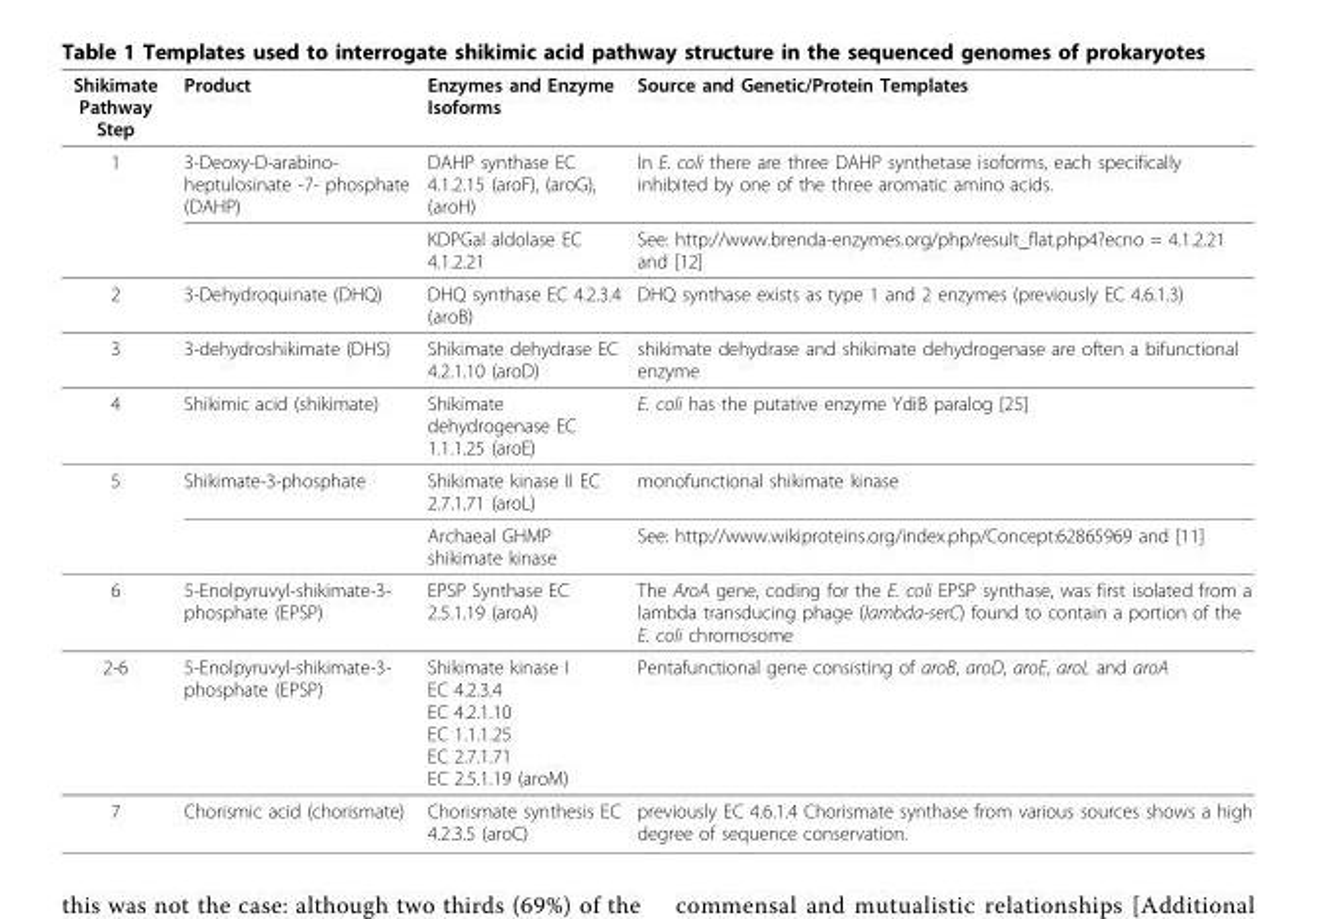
<table><thead><tr><td>Shikimate Pathway Step</td><td>Product</td><td>Enzymes and Enzyme Isoforms</td><td>Source and Genetic/Protein Templates</td></tr></thead><tbody><tr><td rowspan="2">1</td><td>3-Deoxy-D-arabino- heptulosinate -7- phosphate (DAHP)</td><td>DAHP synthase EC 4.1.2.15 (aroF), (aroG), (aroH)</td><td>In E. coli there are three DAHP synthetase isoforms, each specifically inhibited by one of the three aromatic amino acids.</td></tr><tr><td></td><td>KDPGal aldolase EC 4.1.2.21</td><td>See: http://www.brenda-enzymes.org/php/result_flat.php4?ecno = 4.1.2.21 and [12]</td></tr><tr><td>2</td><td>3-Dehydroquinate (DHQ)</td><td>DHQ synthase EC 4.2.3.4 (aroB)</td><td>DHQ synthase exists as type 1 and 2 enzymes (previously EC 4.6.1.3)</td></tr><tr><td>3</td><td>3-dehydroshikimate (DHS)</td><td>Shikimate dehydrase EC 4.2.1.10 (aroD)</td><td>shikimate dehydrase and shikimate dehydrogenase are often a bifunctional enzyme</td></tr><tr><td>4</td><td>Shikimic acid (shikimate)</td><td>Shikimate dehydrogenase EC 1.1.1.25 (aroE)</td><td>E. coli has the putative enzyme YdiB paralog [25]</td></tr><tr><td rowspan="2">5</td><td>Shikimate-3-phosphate</td><td>Shikimate kinase II EC 2.7.1.71 (aroL)</td><td>monofunctional shikimate kinase</td></tr><tr><td></td><td>Archaeal GHMP shikimate kinase</td><td>See: http://www.wikiproteins.org/index.php/Concept:62865969 and [11]</td></tr><tr><td>6</td><td>5-Enolpyruvyl-shikimate-3- phosphate (EPSP)</td><td>EPSP Synthase EC 2.5.1.19 (aroA)</td><td>The AroA gene, coding for the E. coli EPSP synthase, was first isolated from a lambda transducing phage (lambda-serC) found to contain a portion of the E. coli chromosome</td></tr><tr><td>2-6</td><td>5-Enolpyruvyl-shikimate-3- phosphate (EPSP)</td><td>Shikimate kinase I EC 4.2.3.4 EC 4.2.1.10 EC 1.1.1.25 EC 2.7.1.71 EC 2.5.1.19 (aroM)</td><td>Pentafunctional gene consisting of aroB, aroD, aroE, aroL and aroA</td></tr><tr><td>7</td><td>Chorismic acid (chorismate)</td><td>Chorismate synthesis EC 4.2.3.5 (aroC)</td><td>previously EC 4.6.1.4 Chorismate synthase from various sources shows a high degree of sequence conservation.</td></tr></tbody></table>